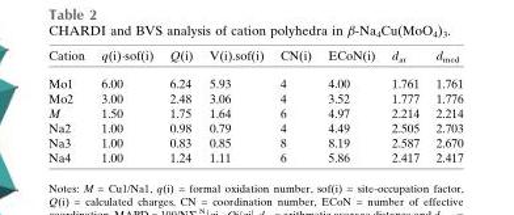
<table><thead><tr><td>Cation</td><td>q(i)·sof(i)</td><td>Q(i)</td><td>V(i).sof(i)</td><td>CN(i)</td><td>ECoN(i)</td><td>d<sub>ar</sub></td><td>d<sub>med</sub></td></tr></thead><tbody><tr><td>Mo1</td><td>6.00</td><td>6.24</td><td>5.93</td><td>4</td><td>4.00</td><td>1.761</td><td>1.761</td></tr><tr><td>Mo2</td><td>3.00</td><td>2.48</td><td>3.06</td><td>4</td><td>3.52</td><td>1.777</td><td>1.776</td></tr><tr><td>M</td><td>1.50</td><td>1.75</td><td>1.64</td><td>6</td><td>4.97</td><td>2.214</td><td>2.214</td></tr><tr><td>Na2</td><td>1.00</td><td>0.98</td><td>0.79</td><td>4</td><td>4.49</td><td>2.505</td><td>2.703</td></tr><tr><td>Na3</td><td>1.00</td><td>0.83</td><td>0.85</td><td>8</td><td>8.19</td><td>2.587</td><td>2.670</td></tr><tr><td>Na4</td><td>1.00</td><td>1.24</td><td>1.11</td><td>6</td><td>5.86</td><td>2.417</td><td>2.417</td></tr></tbody></table>